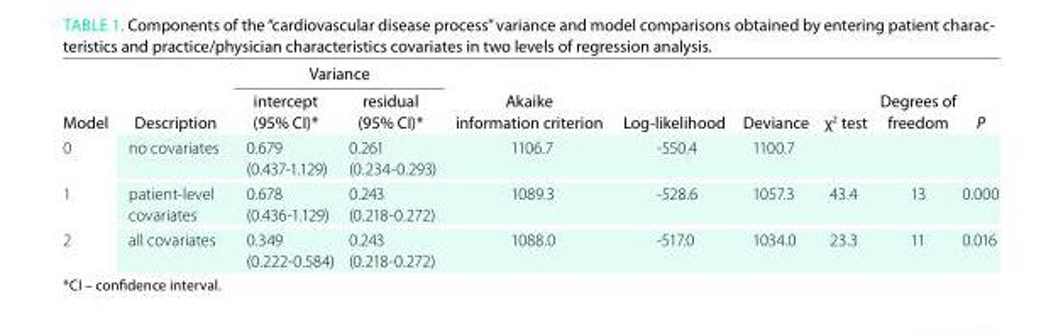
<table><thead><tr><td rowspan="2">model</td><td rowspan="2">Description</td><td colspan="2">Variance</td><td rowspan="2">Akaike information criterion</td><td rowspan="2">log-likelihood</td><td rowspan="2">Deviance</td><td rowspan="2">χ<sup>2</sup> test</td><td rowspan="2">Degrees of freedom</td><td rowspan="2">P</td></tr><tr><td>intercept (95% ci)*</td><td>residual (95% ci)*</td></tr></thead><tbody><tr><td>0</td><td>no covariates</td><td>0.679 (0.437-1.129)</td><td>0.261 (0.234-0.293)</td><td>1106.7</td><td>-550.4</td><td>1100.7</td><td></td><td></td><td></td></tr><tr><td>1</td><td>patient-level covariates</td><td>0.678 (0.436-1.129)</td><td>0.243 (0.218-0.272)</td><td>1089.3</td><td>-528.6</td><td>1057.3</td><td>43.4</td><td>13</td><td>0.000</td></tr><tr><td>2</td><td>all covariates</td><td>0.349 (0.222-0.584)</td><td>0.243 (0.218-0.272)</td><td>1088.0</td><td>-517.0</td><td>1034.0</td><td>23.3</td><td>11</td><td>0.016</td></tr></tbody></table>